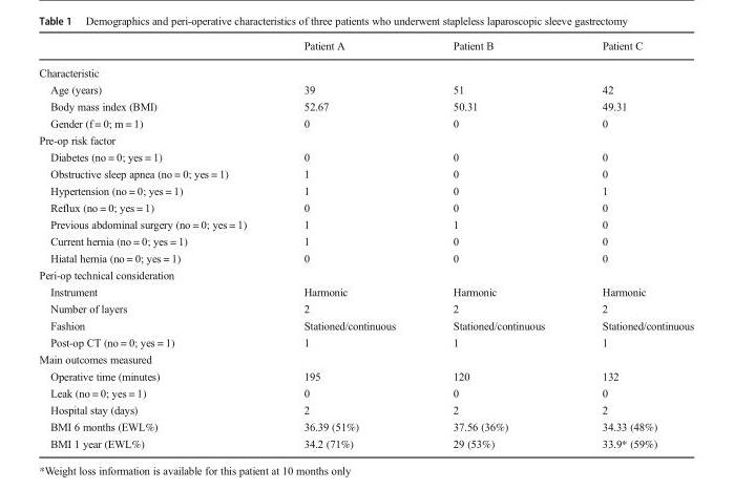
<table><thead><tr><td></td><td>Patient A</td><td>Patient B</td><td>Patient C</td></tr></thead><tbody><tr><td colspan="4">Characteristic</td></tr><tr><td>Age (years)</td><td>39</td><td>51</td><td>42</td></tr><tr><td>Body mass index (BMI)</td><td>52.67</td><td>50.31</td><td>49.31</td></tr><tr><td>Gender (f = 0; m = 1)</td><td>0</td><td>0</td><td>0</td></tr><tr><td colspan="4">Pre-op risk factor</td></tr><tr><td>Diabetes (no = 0; yes = 1)</td><td>0</td><td>0</td><td>0</td></tr><tr><td>Obstructive sleep apnea (no = 0; yes = 1)</td><td>1</td><td>0</td><td>0</td></tr><tr><td>Hypertension (no = 0; yes = 1)</td><td>1</td><td>0</td><td>1</td></tr><tr><td>Reflux (no = 0; yes = 1)</td><td>0</td><td>0</td><td>0</td></tr><tr><td>Previous abdominal surgery (no = 0; yes = 1)</td><td>1</td><td>1</td><td>0</td></tr><tr><td>Current hernia (no = 0; yes = 1)</td><td>1</td><td>0</td><td>0</td></tr><tr><td>Hiatal hernia (no = 0; yes = 1)</td><td>0</td><td>0</td><td>0</td></tr><tr><td colspan="4">Peri-op technical consideration</td></tr><tr><td>Instrument</td><td>Harmonic</td><td>Harmonic</td><td>Harmonic</td></tr><tr><td>Number of layers</td><td>2</td><td>2</td><td>2</td></tr><tr><td>Fashion</td><td>Stationed/continuous</td><td>Stationed/continuous</td><td>Stationed/continuous</td></tr><tr><td>Post-op CT (no = 0; yes = 1)</td><td>1</td><td>1</td><td>1</td></tr><tr><td colspan="4">Main outcomes measured</td></tr><tr><td>Operative time (minutes)</td><td>195</td><td>120</td><td>132</td></tr><tr><td>Leak (no = 0; yes = 1)</td><td>0</td><td>0</td><td>0</td></tr><tr><td>Hospital stay (days)</td><td>2</td><td>2</td><td>2</td></tr><tr><td>BMI 6 months (EWL%)</td><td>36.39 (51%)</td><td>37.56 (36%)</td><td>34.33 (48%)</td></tr><tr><td>BMI 1 year (EWL%)</td><td>34.2 (71%)</td><td>29 (53%)</td><td>33.9* (59%)</td></tr></tbody></table>